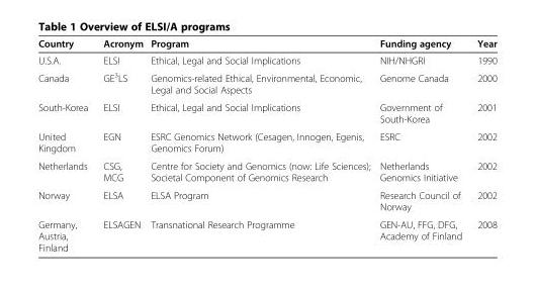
<table><thead><tr><td>Country</td><td>Acronym</td><td>Program</td><td>Funding agency</td><td>Year</td></tr></thead><tbody><tr><td>U.S.A.</td><td>ELSI</td><td>Ethical, Legal and Social Implications</td><td>NIH/NHGRI</td><td>1990</td></tr><tr><td>Canada</td><td>GE<sup>3</sup>LS</td><td>Genomics-related Ethical, Environmental, Economic, Legal and Social Aspects</td><td>Genome Canada</td><td>2000</td></tr><tr><td>South-Korea</td><td>ELSI</td><td>Ethical, Legal and Social Implications</td><td>Government of South-Korea</td><td>2001</td></tr><tr><td>United Kingdom</td><td>EGN</td><td>ESRC Genomics Network (Cesagen, Innogen, Egenis, Genomics Forum)</td><td>ESRC</td><td>2002</td></tr><tr><td>Netherlands</td><td>CSG, MCG</td><td>Centre for Society and Genomics (now: Life Sciences); Societal Component of Genomics Research</td><td>Netherlands Genomics Initiative</td><td>2002</td></tr><tr><td>Norway</td><td>ELSA</td><td>ELSA Program</td><td>Research Council of Norway</td><td>2002</td></tr><tr><td>Germany, Austria, Finland</td><td>ELSAGEN</td><td>Transnational Research Programme</td><td>GEN-AU, FFG, DFG, Academy of Finland</td><td>2008</td></tr></tbody></table>